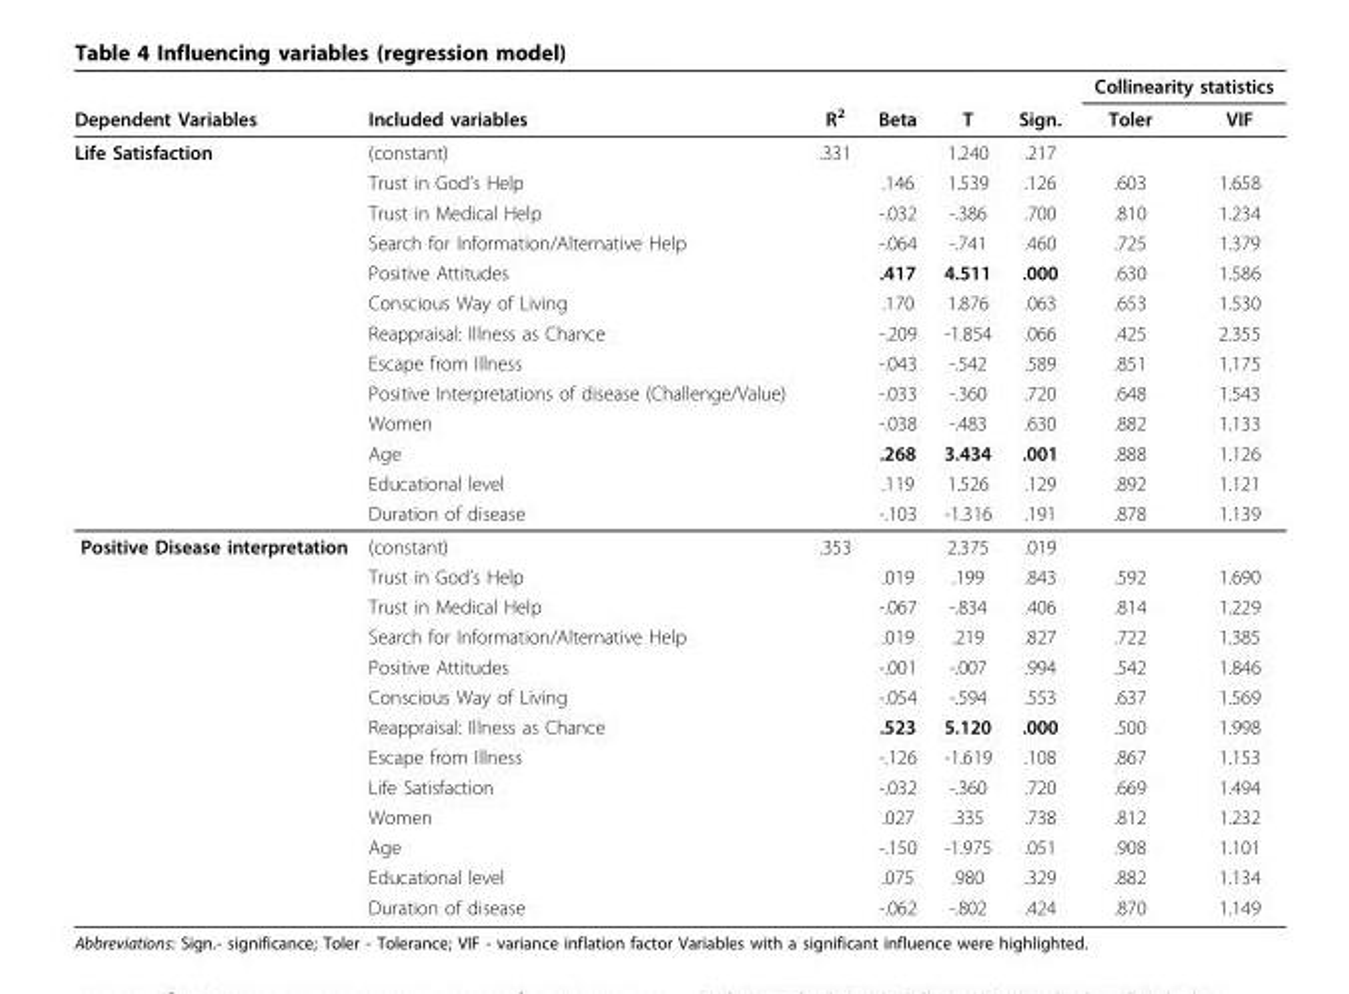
<table><thead><tr><td rowspan="2">Dependent Variables</td><td rowspan="2">Included variables</td><td rowspan="2">R<sup>2</sup></td><td rowspan="2">Beta</td><td rowspan="2">T</td><td rowspan="2">Sign.</td><td colspan="2">Collinearity statistics</td></tr><tr><td>Toler</td><td>VIF</td></tr></thead><tbody><tr><td rowspan="13">Life Satisfaction</td><td>(constant)</td><td>.331</td><td></td><td>1.240</td><td>.217</td><td></td><td></td></tr><tr><td>Trust in God’s Help</td><td></td><td>.146</td><td>1.539</td><td>.126</td><td>.603</td><td>1.658</td></tr><tr><td>Trust in Medical Help</td><td></td><td>-.032</td><td>-.386</td><td>.700</td><td>.810</td><td>1.234</td></tr><tr><td>Search for Information/Alternative Help</td><td></td><td>-.064</td><td>-.741</td><td>.460</td><td>.725</td><td>1.379</td></tr><tr><td>Positive Attitudes</td><td></td><td>.417</td><td>4.511</td><td>.000</td><td>.630</td><td>1.586</td></tr><tr><td>Conscious Way of Living</td><td></td><td>.170</td><td>1.876</td><td>.063</td><td>.653</td><td>1.530</td></tr><tr><td>Reappraisal: Illness as Chance</td><td></td><td>-.209</td><td>-1.854</td><td>.066</td><td>.425</td><td>2.355</td></tr><tr><td>Escape from Illness</td><td></td><td>-.043</td><td>-.542</td><td>.589</td><td>.851</td><td>1.175</td></tr><tr><td>Positive Interpretations of disease (Challenge/Value)</td><td></td><td>-.033</td><td>-.360</td><td>.720</td><td>.648</td><td>1.543</td></tr><tr><td>Women</td><td></td><td>-.038</td><td>-.483</td><td>.630</td><td>.882</td><td>1.133</td></tr><tr><td>Age</td><td></td><td>.268</td><td>3.434</td><td>.001</td><td>.888</td><td>1.126</td></tr><tr><td>Educational level</td><td></td><td>.119</td><td>1.526</td><td>.129</td><td>.892</td><td>1.121</td></tr><tr><td>Duration of disease</td><td></td><td>-.103</td><td>-1.316</td><td>.191</td><td>.878</td><td>1.139</td></tr><tr><td rowspan="13">Positive Disease interpretation</td><td>(constant)</td><td>.353</td><td></td><td>2.375</td><td>.019</td><td></td><td></td></tr><tr><td>Trust in God’s Help</td><td></td><td>.019</td><td>.199</td><td>.843</td><td>.592</td><td>1.690</td></tr><tr><td>Trust in Medical Help</td><td></td><td>-.067</td><td>-.834</td><td>.406</td><td>.814</td><td>1.229</td></tr><tr><td>Search for Information/Alternative Help</td><td></td><td>.019</td><td>.219</td><td>.827</td><td>.722</td><td>1.385</td></tr><tr><td>Positive Attitudes</td><td></td><td>-.001</td><td>-.007</td><td>.994</td><td>.542</td><td>1.846</td></tr><tr><td>Conscious Way of Living</td><td></td><td>-.054</td><td>-.594</td><td>.553</td><td>.637</td><td>1.569</td></tr><tr><td>Reappraisal: Illness as Chance</td><td></td><td>.523</td><td>5.120</td><td>.000</td><td>.500</td><td>1.998</td></tr><tr><td>Escape from Illness</td><td></td><td>-.126</td><td>-1.619</td><td>.108</td><td>.867</td><td>1.153</td></tr><tr><td>Life Satisfaction</td><td></td><td>-.032</td><td>-.360</td><td>.720</td><td>.669</td><td>1.494</td></tr><tr><td>Women</td><td></td><td>.027</td><td>.335</td><td>.738</td><td>.812</td><td>1.232</td></tr><tr><td>Age</td><td></td><td>-.150</td><td>-1.975</td><td>.051</td><td>.908</td><td>1.101</td></tr><tr><td>Educational level</td><td></td><td>.075</td><td>.980</td><td>.329</td><td>.882</td><td>1.134</td></tr><tr><td>Duration of disease</td><td></td><td>-.062</td><td>-.802</td><td>.424</td><td>.870</td><td>1.149</td></tr></tbody></table>